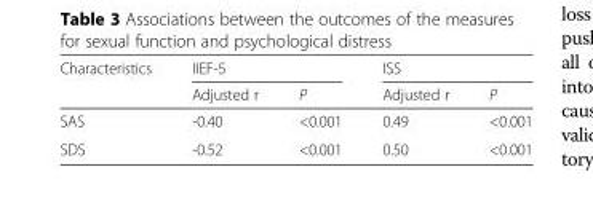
<table><thead><tr><td rowspan="2">Characteristics</td><td colspan="2">IIEF-5</td><td colspan="2">ISS</td></tr><tr><td>Adjusted r</td><td>P</td><td>Adjusted r</td><td>P</td></tr></thead><tbody><tr><td>SAS</td><td>-0.40</td><td>&lt;0.001</td><td>0.49</td><td>&lt;0.001</td></tr><tr><td>SDS</td><td>-0.52</td><td>&lt;0.001</td><td>0.50</td><td>&lt;0.001</td></tr></tbody></table>